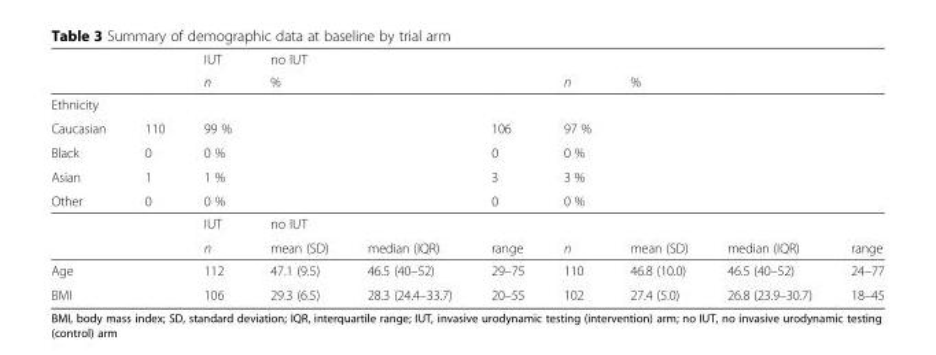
<table><thead><tr><td rowspan="2"></td><td rowspan="2"></td><td rowspan="2">IUT n</td><td rowspan="2">no IUT %</td><td rowspan="2"></td><td rowspan="2"></td><td rowspan="2">n</td><td rowspan="2">%</td><td rowspan="2"></td><td rowspan="2"></td></tr><tr></tr></thead><tbody><tr><td colspan="10">Ethnicity</td></tr><tr><td>Caucasian</td><td>110</td><td>99 %</td><td></td><td></td><td>106</td><td>97 %</td><td></td><td></td><td></td></tr><tr><td>Black</td><td>0</td><td>0 %</td><td></td><td></td><td>0</td><td>0 %</td><td></td><td></td><td></td></tr><tr><td>Asian</td><td>1</td><td>1 %</td><td></td><td></td><td>3</td><td>3 %</td><td></td><td></td><td></td></tr><tr><td rowspan="3">Other</td><td>0</td><td>0 %</td><td></td><td></td><td>0</td><td>0 %</td><td></td><td></td><td></td></tr><tr><td></td><td>IUT</td><td>no IUT</td><td></td><td></td><td></td><td></td><td></td><td></td></tr><tr><td></td><td>n</td><td>mean (SD)</td><td>median (IQR)</td><td>range</td><td>n</td><td>mean (SD)</td><td>median (IQR)</td><td>range</td></tr><tr><td>Age</td><td></td><td>112</td><td>47.1 (9.5)</td><td>46.5 (40–52)</td><td>29–75</td><td>110</td><td>46.8 (10.0)</td><td>46.5 (40–52)</td><td>24–77</td></tr><tr><td>BMI</td><td></td><td>106</td><td>29.3 (6.5)</td><td>28.3 (24.4–33.7)</td><td>20–55</td><td>102</td><td>27.4 (5.0)</td><td>26.8 (23.9–30.7)</td><td>18–45</td></tr></tbody></table>